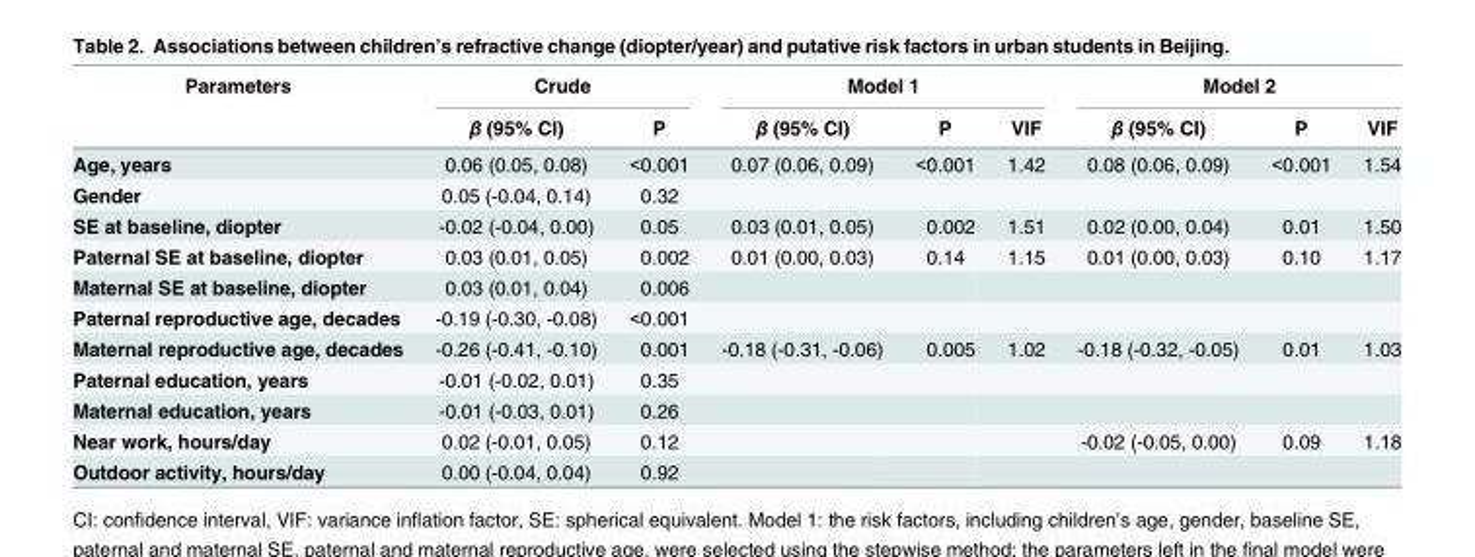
<table><thead><tr><td rowspan="2">Parameters</td><td colspan="2">Crude</td><td colspan="3">Model 1</td><td colspan="3">Model 2</td></tr><tr><td>β (95% CI)</td><td>P</td><td>β (95% CI)</td><td>P</td><td>VIF</td><td>β (95% CI)</td><td>P</td><td>VIF</td></tr></thead><tbody><tr><td>Age, years</td><td>0.06 (0.05, 0.08)</td><td>&lt;0.001</td><td>0.07 (0.06, 0.09)</td><td>&lt;0.001</td><td>1.42</td><td>0.08 (0.06, 0.09)</td><td>&lt;0.001</td><td>1.54</td></tr><tr><td>Gender</td><td>0.05 (-0.04, 0.14)</td><td>0.32</td><td></td><td></td><td></td><td></td><td></td><td></td></tr><tr><td>SE at baseline, diopter</td><td>-0.02 (-0.04, 0.00)</td><td>0.05</td><td>0.03 (0.01, 0.05)</td><td>0.002</td><td>1.51</td><td>0.02 (0.00, 0.04)</td><td>0.01</td><td>1.50</td></tr><tr><td>Paternal SE at baseline, diopter</td><td>0.03 (0.01, 0.05)</td><td>0.002</td><td>0.01 (0.00, 0.03)</td><td>0.14</td><td>1.15</td><td>0.01 (0.00, 0.03)</td><td>0.10</td><td>1.17</td></tr><tr><td>Maternal SE at baseline, diopter</td><td>0.03 (0.01, 0.04)</td><td>0.006</td><td></td><td></td><td></td><td></td><td></td><td></td></tr><tr><td>Paternal reproductive age, decades</td><td>-0.19 (-0.30, -0.08)</td><td>&lt;0.001</td><td></td><td></td><td></td><td></td><td></td><td></td></tr><tr><td>Maternal reproductive age, decades</td><td>-0.26 (-0.41, -0.10)</td><td>0.001</td><td>-0.18 (-0.31, -0.06)</td><td>0.005</td><td>1.02</td><td>-0.18 (-0.32, -0.05)</td><td>0.01</td><td>1.03</td></tr><tr><td>Paternal education, years</td><td>-0.01 (-0.02, 0.01)</td><td>0.35</td><td></td><td></td><td></td><td></td><td></td><td></td></tr><tr><td>Maternal education, years</td><td>-0.01 (-0.03, 0.01)</td><td>0.26</td><td></td><td></td><td></td><td></td><td></td><td></td></tr><tr><td>Near work, hours/day</td><td>0.02 (-0.01, 0.05)</td><td>0.12</td><td></td><td></td><td></td><td>-0.02 (-0.05, 0.00)</td><td>0.09</td><td>1.18</td></tr><tr><td>Outdoor activity, hours/day</td><td>0.00 (-0.04, 0.04)</td><td>0.92</td><td></td><td></td><td></td><td></td><td></td><td></td></tr></tbody></table>